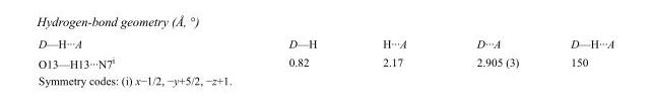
<table><tbody><tr><td>D—H···A</td><td>D—H</td><td>H···A</td><td>D···A</td><td>D—H···A</td></tr><tr><td>O13—H13···N7<sup>i</sup></td><td>0.82</td><td>2.17</td><td>2.905 (3)</td><td>150</td></tr></tbody></table>